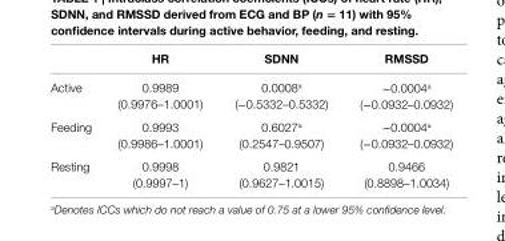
<table><thead><tr><td></td><td>hr</td><td>sDnn</td><td>rMssD</td></tr></thead><tbody><tr><td>Active</td><td>0.9989 (0.9976–1.0001)</td><td>0.0008<sup>a</sup> (−0.5332–0.5332)</td><td>−0.0004<sup>a</sup> (−0.0932–0.0932)</td></tr><tr><td>Feeding</td><td>0.9993 (0.9986–1.0001)</td><td>0.6027<sup>a</sup> (0.2547–0.9507)</td><td>−0.0004<sup>a</sup> (−0.0932–0.0932)</td></tr><tr><td>Resting</td><td>0.9998 (0.9997–1)</td><td>0.9821 (0.9627–1.0015)</td><td>0.9466 (0.8898–1.0034)</td></tr></tbody></table>